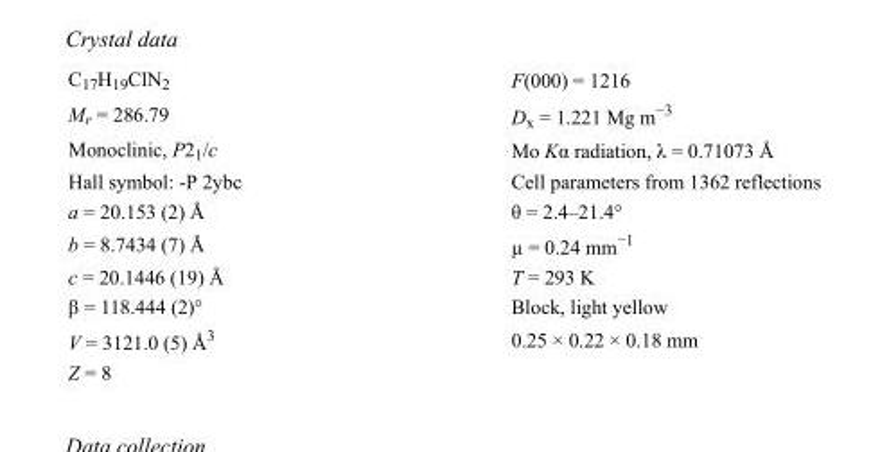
<table><tbody><tr><td>C<sub>17</sub>H<sub>19</sub>ClN<sub>2</sub></td><td>F(000) = 1216</td></tr><tr><td>M<sub>r</sub> = 286.79</td><td>D<sub>x</sub> = 1.221 Mg m<sup>−3</sup></td></tr><tr><td>Monoclinic, P2<sub>1</sub>/c</td><td>Mo Kα radiation, λ = 0.71073 Å</td></tr><tr><td>Hall symbol: -P 2ybc</td><td>Cell parameters from 1362 reflections</td></tr><tr><td>a = 20.153 (2) Å</td><td>θ = 2.4–21.4°</td></tr><tr><td>b = 8.7434 (7) Å</td><td>µ = 0.24 mm<sup>−1</sup></td></tr><tr><td>c = 20.1446 (19) Å</td><td>T = 293 K</td></tr><tr><td>β = 118.444 (2)°</td><td>Block, light yellow</td></tr><tr><td>V = 3121.0 (5) Å<sup>3</sup></td><td>0.25 × 0.22 × 0.18 mm</td></tr><tr><td>Z = 8</td><td></td></tr></tbody></table>